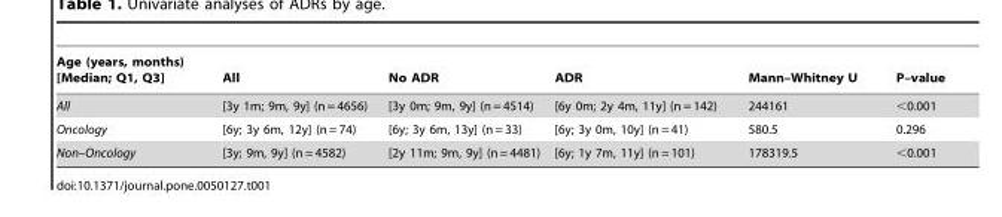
<table><thead><tr><td>Age (years, months) [Median; Q1, Q3]</td><td>All</td><td>No ADR</td><td>ADR</td><td>Mann–Whitney U</td><td>P–value</td></tr></thead><tbody><tr><td>All</td><td>[3y 1m; 9m, 9y] (n = 4656)</td><td>[3y 0m; 9m, 9y] (n = 4514)</td><td>[6y 0m; 2y 4m, 11y] (n = 142)</td><td>244161</td><td>&lt;0.001</td></tr><tr><td>Oncology</td><td>[6y; 3y 6m, 12y] (n = 74)</td><td>[6y; 3y 6m, 13y] (n = 33)</td><td>[6y; 3y 0m, 10y] (n = 41)</td><td>580.5</td><td>0.296</td></tr><tr><td>Non–Oncology</td><td>[3y; 9m, 9y] (n = 4582)</td><td>[2y 11m; 9m, 9y] (n = 4481)</td><td>[6y; 1y 7m, 11y] (n = 101)</td><td>178319.5</td><td>&lt;0.001</td></tr></tbody></table>